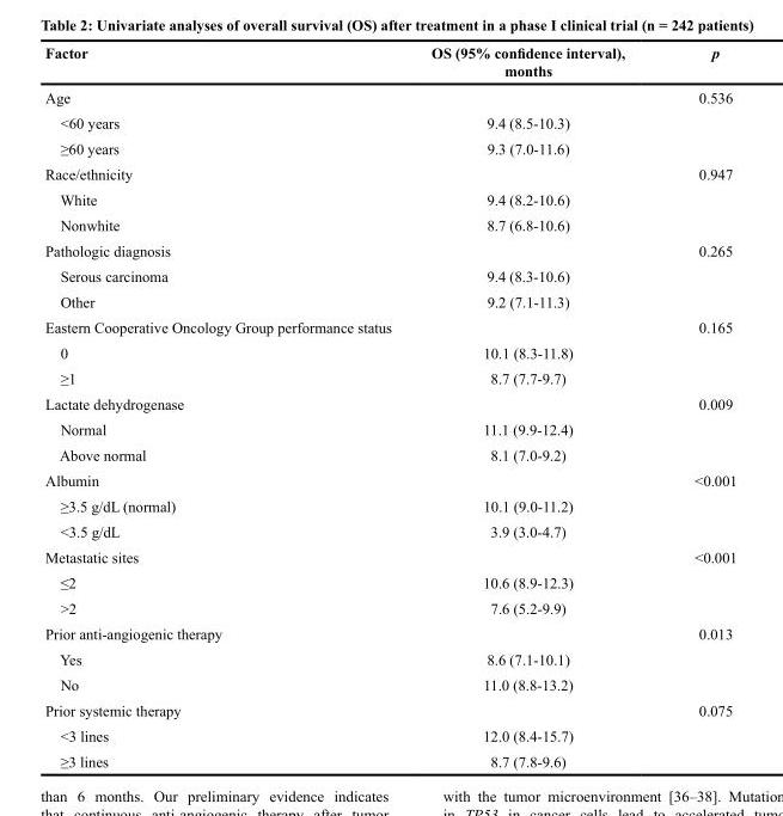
<table><thead><tr><td>Factor</td><td>OS (95% confidence interval), months</td><td>p</td></tr></thead><tbody><tr><td>Age</td><td></td><td>0.536</td></tr><tr><td>&lt;60 years</td><td>9.4 (8.5-10.3)</td><td></td></tr><tr><td>≥60 years</td><td>9.3 (7.0-11.6)</td><td></td></tr><tr><td>Race/ethnicity</td><td></td><td>0.947</td></tr><tr><td>White</td><td>9.4 (8.2-10.6)</td><td></td></tr><tr><td>Nonwhite</td><td>8.7 (6.8-10.6)</td><td></td></tr><tr><td>Pathologic diagnosis</td><td></td><td>0.265</td></tr><tr><td>Serous carcinoma</td><td>9.4 (8.3-10.6)</td><td></td></tr><tr><td>Other</td><td>9.2 (7.1-11.3)</td><td></td></tr><tr><td>Eastern Cooperative Oncology Group performance status</td><td></td><td>0.165</td></tr><tr><td>0</td><td>10.1 (8.3-11.8)</td><td></td></tr><tr><td>≥1</td><td>8.7 (7.7-9.7)</td><td></td></tr><tr><td>Lactate dehydrogenase</td><td></td><td>0.009</td></tr><tr><td>Normal</td><td>11.1 (9.9-12.4)</td><td></td></tr><tr><td>Above normal</td><td>8.1 (7.0-9.2)</td><td></td></tr><tr><td>Albumin</td><td></td><td>&lt;0.001</td></tr><tr><td>≥3.5 g/dL (normal)</td><td>10.1 (9.0-11.2)</td><td></td></tr><tr><td>&lt;3.5 g/dL</td><td>3.9 (3.0-4.7)</td><td></td></tr><tr><td>Metastatic sites</td><td></td><td>&lt;0.001</td></tr><tr><td>≤2</td><td>10.6 (8.9-12.3)</td><td></td></tr><tr><td>&gt;2</td><td>7.6 (5.2-9.9)</td><td></td></tr><tr><td>Prior anti-angiogenic therapy</td><td></td><td>0.013</td></tr><tr><td>Yes</td><td>8.6 (7.1-10.1)</td><td></td></tr><tr><td>No</td><td>11.0 (8.8-13.2)</td><td></td></tr><tr><td>Prior systemic therapy</td><td></td><td>0.075</td></tr><tr><td>&lt;3 lines</td><td>12.0 (8.4-15.7)</td><td></td></tr><tr><td>≥3 lines</td><td>8.7 (7.8-9.6)</td><td></td></tr></tbody></table>